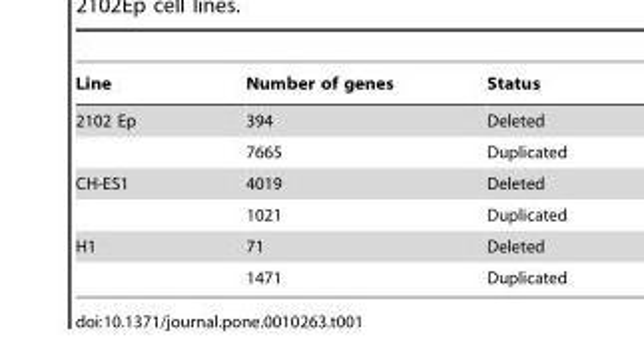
<table><thead><tr><td>Line</td><td>Number of genes</td><td>Status</td></tr></thead><tbody><tr><td rowspan="2">2102 Ep</td><td>394</td><td>Deleted</td></tr><tr><td>7665</td><td>Duplicated</td></tr><tr><td rowspan="2">CH-ES1</td><td>4019</td><td>Deleted</td></tr><tr><td>1021</td><td>Duplicated</td></tr><tr><td rowspan="2">H1</td><td>71</td><td>Deleted</td></tr><tr><td>1471</td><td>Duplicated</td></tr></tbody></table>